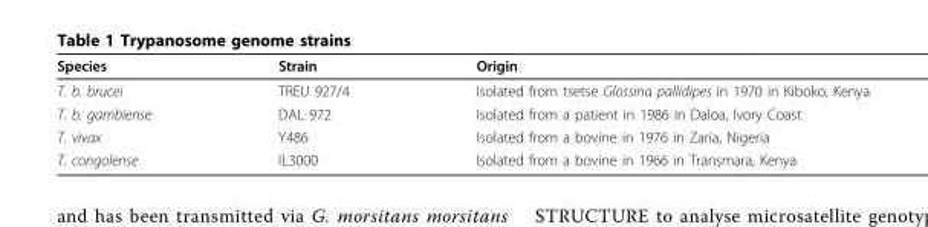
<table><thead><tr><td>Species</td><td>Strain</td><td>Origin</td></tr></thead><tbody><tr><td>T. b. brucei</td><td>TREU 927/4</td><td>Isolated from tsetse Glossina pallidipes in 1970 in Kiboko, Kenya</td></tr><tr><td>T. b. gambiense</td><td>DAL 972</td><td>Isolated from a patient in 1986 in Daloa, Ivory Coast</td></tr><tr><td>T. vivax</td><td>Y486</td><td>Isolated from a bovine in 1976 in Zaria, Nigeria</td></tr><tr><td>T. congolense</td><td>IL3000</td><td>Isolated from a bovine in 1966 in Transmara, Kenya</td></tr></tbody></table>